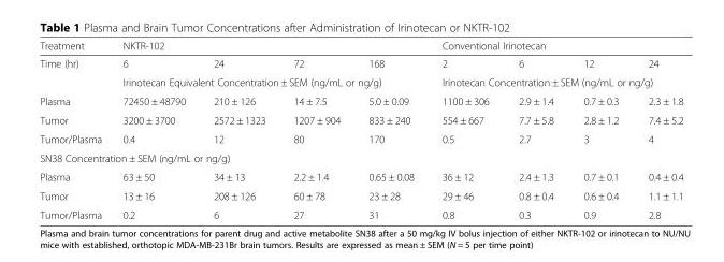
<table><thead><tr><td rowspan="2">Treatment Time (hr)</td><td colspan="4">NKTR-102</td><td colspan="4">Conventional Irinotecan</td></tr><tr><td>6</td><td>24</td><td>72</td><td>168</td><td>2</td><td>6</td><td>12</td><td>24</td></tr></thead><tbody><tr><td></td><td colspan="4">Irinotecan Equivalent Concentration ± SEM (ng/mL or ng/g)</td><td colspan="4">Irinotecan Concentration ± SEM (ng/mL or ng/g)</td></tr><tr><td>Plasma</td><td>72450 ± 48790</td><td>210 ± 126</td><td>14 ± 7.5</td><td>5.0 ± 0.09</td><td>1100 ± 306</td><td>2.9 ± 1.4</td><td>0.7 ± 0.3</td><td>2.3 ± 1.8</td></tr><tr><td>Tumor</td><td>3200 ± 3700</td><td>2572 ± 1323</td><td>1207 ± 904</td><td>833 ± 240</td><td>554 ± 667</td><td>7.7 ± 5.8</td><td>2.8 ± 1.2</td><td>7.4 ± 5.2</td></tr><tr><td>Tumor/Plasma</td><td>0.4</td><td>12</td><td>80</td><td>170</td><td>0.5</td><td>2.7</td><td>3</td><td>4</td></tr><tr><td colspan="9">SN38 Concentration ± SEM (ng/mL or ng/g)</td></tr><tr><td>Plasma</td><td>63 ± 50</td><td>34 ± 13</td><td>2.2 ± 1.4</td><td>0.65 ± 0.08</td><td>36 ± 12</td><td>2.4 ± 1.3</td><td>0.7 ± 0.1</td><td>0.4 ± 0.4</td></tr><tr><td>Tumor</td><td>13 ± 16</td><td>208 ± 126</td><td>60 ± 78</td><td>23 ± 28</td><td>29 ± 46</td><td>0.8 ± 0.4</td><td>0.6 ± 0.4</td><td>1.1 ± 1.1</td></tr><tr><td>Tumor/Plasma</td><td>0.2</td><td>6</td><td>27</td><td>31</td><td>0.8</td><td>0.3</td><td>0.9</td><td>2.8</td></tr></tbody></table>